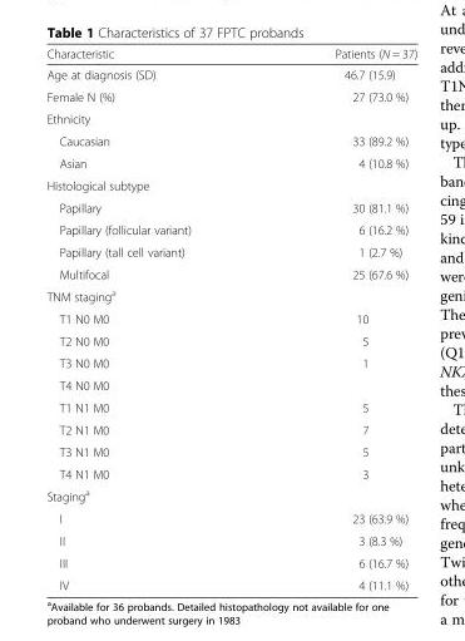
<table><thead><tr><td>Characteristic</td><td>Patients (N = 37)</td></tr></thead><tbody><tr><td>Age at diagnosis (SD)</td><td>46.7 (15.9)</td></tr><tr><td>Female N (%)</td><td>27 (73.0 %)</td></tr><tr><td colspan="2">Ethnicity</td></tr><tr><td>Caucasian</td><td>33 (89.2 %)</td></tr><tr><td>Asian</td><td>4 (10.8 %)</td></tr><tr><td colspan="2">Histological subtype</td></tr><tr><td>Papillary</td><td>30 (81.1 %)</td></tr><tr><td>Papillary (follicular variant)</td><td>6 (16.2 %)</td></tr><tr><td>Papillary (tall cell variant)</td><td>1 (2.7 %)</td></tr><tr><td>Multifocal</td><td>25 (67.6 %)</td></tr><tr><td colspan="2">TNM staging<sup>a</sup></td></tr><tr><td>T1 N0 M0</td><td>10</td></tr><tr><td>T2 N0 M0</td><td>5</td></tr><tr><td>T3 N0 M0</td><td>1</td></tr><tr><td colspan="2">T4 N0 M0</td></tr><tr><td>T1 N1 M0</td><td>5</td></tr><tr><td>T2 N1 M0</td><td>7</td></tr><tr><td>T3 N1 M0</td><td>5</td></tr><tr><td>T4 N1 M0</td><td>3</td></tr><tr><td colspan="2">Staging<sup>a</sup></td></tr><tr><td>I</td><td>23 (63.9 %)</td></tr><tr><td>II</td><td>3 (8.3 %)</td></tr><tr><td>III</td><td>6 (16.7 %)</td></tr><tr><td>IV</td><td>4 (11.1 %)</td></tr></tbody></table>